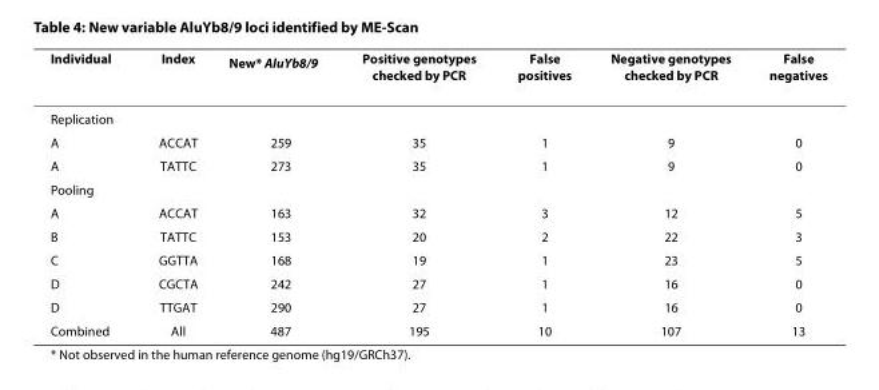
<table><thead><tr><td>Individual</td><td>Index</td><td>New* AluYb8/9</td><td>Positive genotypes checked by PCR</td><td>False positives</td><td>Negative genotypes checked by PCR</td><td>False negatives</td></tr></thead><tbody><tr><td colspan="7">Replication</td></tr><tr><td>A</td><td>ACCAT</td><td>259</td><td>35</td><td>1</td><td>9</td><td>0</td></tr><tr><td>A</td><td>TATTC</td><td>273</td><td>35</td><td>1</td><td>9</td><td>0</td></tr><tr><td colspan="7">Pooling</td></tr><tr><td>A</td><td>ACCAT</td><td>163</td><td>32</td><td>3</td><td>12</td><td>5</td></tr><tr><td>B</td><td>TATTC</td><td>153</td><td>20</td><td>2</td><td>22</td><td>3</td></tr><tr><td>C</td><td>GGTTA</td><td>168</td><td>19</td><td>1</td><td>23</td><td>5</td></tr><tr><td>D</td><td>CGCTA</td><td>242</td><td>27</td><td>1</td><td>16</td><td>0</td></tr><tr><td>D</td><td>TTGAT</td><td>290</td><td>27</td><td>1</td><td>16</td><td>0</td></tr><tr><td>Combined</td><td>All</td><td>487</td><td>195</td><td>10</td><td>107</td><td>13</td></tr></tbody></table>